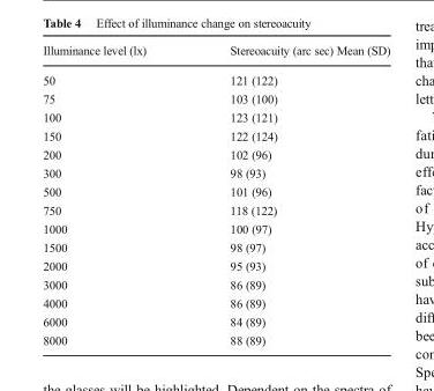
<table><thead><tr><td>Illuminance level (lx)</td><td>Stereoacuity (arc sec) Mean (SD)</td></tr></thead><tbody><tr><td>50</td><td>121 (122)</td></tr><tr><td>75</td><td>103 (100)</td></tr><tr><td>100</td><td>123 (121)</td></tr><tr><td>150</td><td>122 (124)</td></tr><tr><td>200</td><td>102 (96)</td></tr><tr><td>300</td><td>98 (93)</td></tr><tr><td>500</td><td>101 (96)</td></tr><tr><td>750</td><td>118 (122)</td></tr><tr><td>1000</td><td>100 (97)</td></tr><tr><td>1500</td><td>98 (97)</td></tr><tr><td>2000</td><td>95 (93)</td></tr><tr><td>3000</td><td>86 (89)</td></tr><tr><td>4000</td><td>86 (89)</td></tr><tr><td>6000</td><td>84 (89)</td></tr><tr><td>8000</td><td>88 (89)</td></tr></tbody></table>